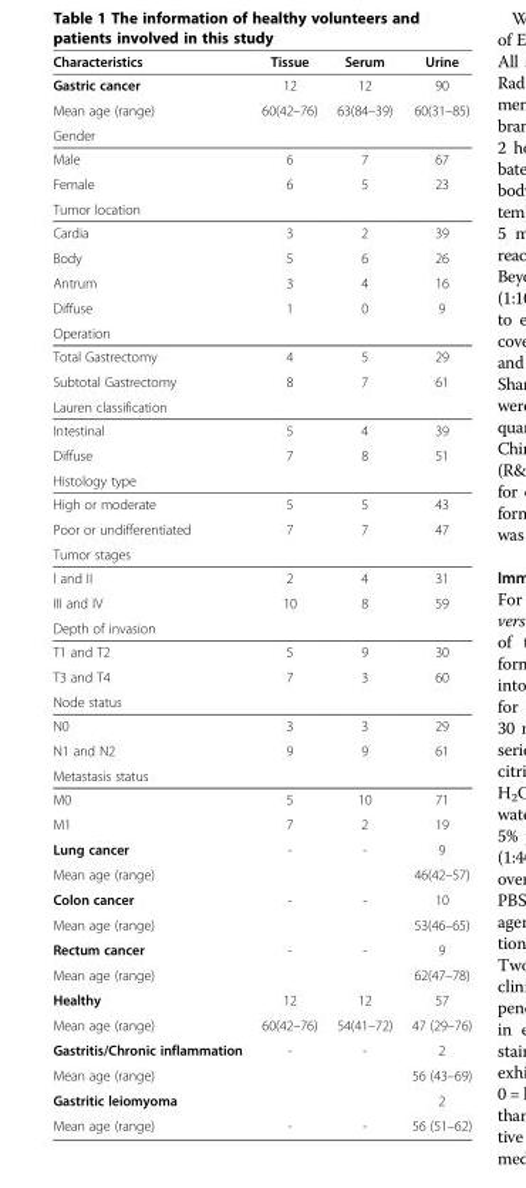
<table><thead><tr><td>Characteristics</td><td>Tissue</td><td>Serum</td><td>Urine</td></tr></thead><tbody><tr><td>Gastric cancer</td><td>12</td><td>12</td><td>90</td></tr><tr><td>Mean age (range)</td><td>60(42–76)</td><td>63(84–39)</td><td>60(31–85)</td></tr><tr><td colspan="4">Gender</td></tr><tr><td>Male</td><td>6</td><td>7</td><td>67</td></tr><tr><td>Female</td><td>6</td><td>5</td><td>23</td></tr><tr><td colspan="4">Tumor location</td></tr><tr><td>Cardia</td><td>3</td><td>2</td><td>39</td></tr><tr><td>Body</td><td>5</td><td>6</td><td>26</td></tr><tr><td>Antrum</td><td>3</td><td>4</td><td>16</td></tr><tr><td>Diffuse</td><td>1</td><td>0</td><td>9</td></tr><tr><td colspan="4">Operation</td></tr><tr><td>Total Gastrectomy</td><td>4</td><td>5</td><td>29</td></tr><tr><td>Subtotal Gastrectomy</td><td>8</td><td>7</td><td>61</td></tr><tr><td colspan="4">Lauren classification</td></tr><tr><td>Intestinal</td><td>5</td><td>4</td><td>39</td></tr><tr><td>Diffuse</td><td>7</td><td>8</td><td>51</td></tr><tr><td colspan="4">Histology type</td></tr><tr><td>High or moderate</td><td>5</td><td>5</td><td>43</td></tr><tr><td>Poor or undifferentiated</td><td>7</td><td>7</td><td>47</td></tr><tr><td colspan="4">Tumor stages</td></tr><tr><td>Ι and ΙΙ</td><td>2</td><td>4</td><td>31</td></tr><tr><td>ΙΙΙ and ΙV</td><td>10</td><td>8</td><td>59</td></tr><tr><td colspan="4">Depth of invasion</td></tr><tr><td>T1 and T2</td><td>5</td><td>9</td><td>30</td></tr><tr><td>T3 and T4</td><td>7</td><td>3</td><td>60</td></tr><tr><td colspan="4">Node status</td></tr><tr><td>N0</td><td>3</td><td>3</td><td>29</td></tr><tr><td>N1 and N2</td><td>9</td><td>9</td><td>61</td></tr><tr><td colspan="4">Metastasis status</td></tr><tr><td>M0</td><td>5</td><td>10</td><td>71</td></tr><tr><td>M1</td><td>7</td><td>2</td><td>19</td></tr><tr><td>Lung cancer</td><td>-</td><td>-</td><td>9</td></tr><tr><td>Mean age (range)</td><td></td><td></td><td>46(42–57)</td></tr><tr><td>Colon cancer</td><td>-</td><td>-</td><td>10</td></tr><tr><td>Mean age (range)</td><td></td><td></td><td>53(46–65)</td></tr><tr><td>Rectum cancer</td><td>-</td><td>-</td><td>9</td></tr><tr><td>Mean age (range)</td><td></td><td></td><td>62(47–78)</td></tr><tr><td>Healthy</td><td>12</td><td>12</td><td>57</td></tr><tr><td>Mean age (range)</td><td>60(42–76)</td><td>54(41–72)</td><td>47 (29–76)</td></tr><tr><td>Gastritis/Chronic inflammation</td><td>-</td><td>-</td><td>2</td></tr><tr><td>Mean age (range)</td><td></td><td></td><td>56 (43–69)</td></tr><tr><td>Gastritic leiomyoma</td><td></td><td></td><td>2</td></tr><tr><td>Mean age (range)</td><td>-</td><td>-</td><td>56 (51–62)</td></tr></tbody></table>